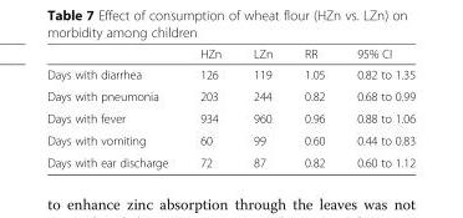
<table><thead><tr><td></td><td>HZn</td><td>LZn</td><td>RR</td><td>95% CI</td></tr></thead><tbody><tr><td>Days with diarrhea</td><td>126</td><td>119</td><td>1.05</td><td>0.82 to 1.35</td></tr><tr><td>Days with pneumonia</td><td>203</td><td>244</td><td>0.82</td><td>0.68 to 0.99</td></tr><tr><td>Days with fever</td><td>934</td><td>960</td><td>0.96</td><td>0.88 to 1.06</td></tr><tr><td>Days with vomiting</td><td>60</td><td>99</td><td>0.60</td><td>0.44 to 0.83</td></tr><tr><td>Days with ear discharge</td><td>72</td><td>87</td><td>0.82</td><td>0.60 to 1.12</td></tr></tbody></table>